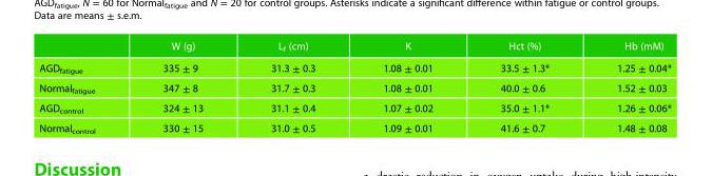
<table><thead><tr><td></td><td>W (g)</td><td>L<sub>f</sub> (cm)</td><td>K</td><td>Hct (%)</td><td>Hb (mM)</td></tr></thead><tbody><tr><td>AGD<sub>fatigue</sub></td><td>335 ± 9</td><td>31.3 ± 0.3</td><td>1.08 ± 0.01</td><td>33.5 ± 1.3*</td><td>1.25 ± 0.04*</td></tr><tr><td>Normal<sub>fatigue</sub></td><td>347 ± 8</td><td>31.7 ± 0.3</td><td>1.08 ± 0.01</td><td>40.0 ± 0.6</td><td>1.52 ± 0.03</td></tr><tr><td>AGD<sub>control</sub></td><td>324 ± 13</td><td>31.1 ± 0.4</td><td>1.07 ± 0.02</td><td>35.0 ± 1.1*</td><td>1.26 ± 0.06*</td></tr><tr><td>Normal<sub>control</sub></td><td>330 ± 15</td><td>31.0 ± 0.5</td><td>1.09 ± 0.01</td><td>41.6 ± 0.7</td><td>1.48 ± 0.08</td></tr></tbody></table>